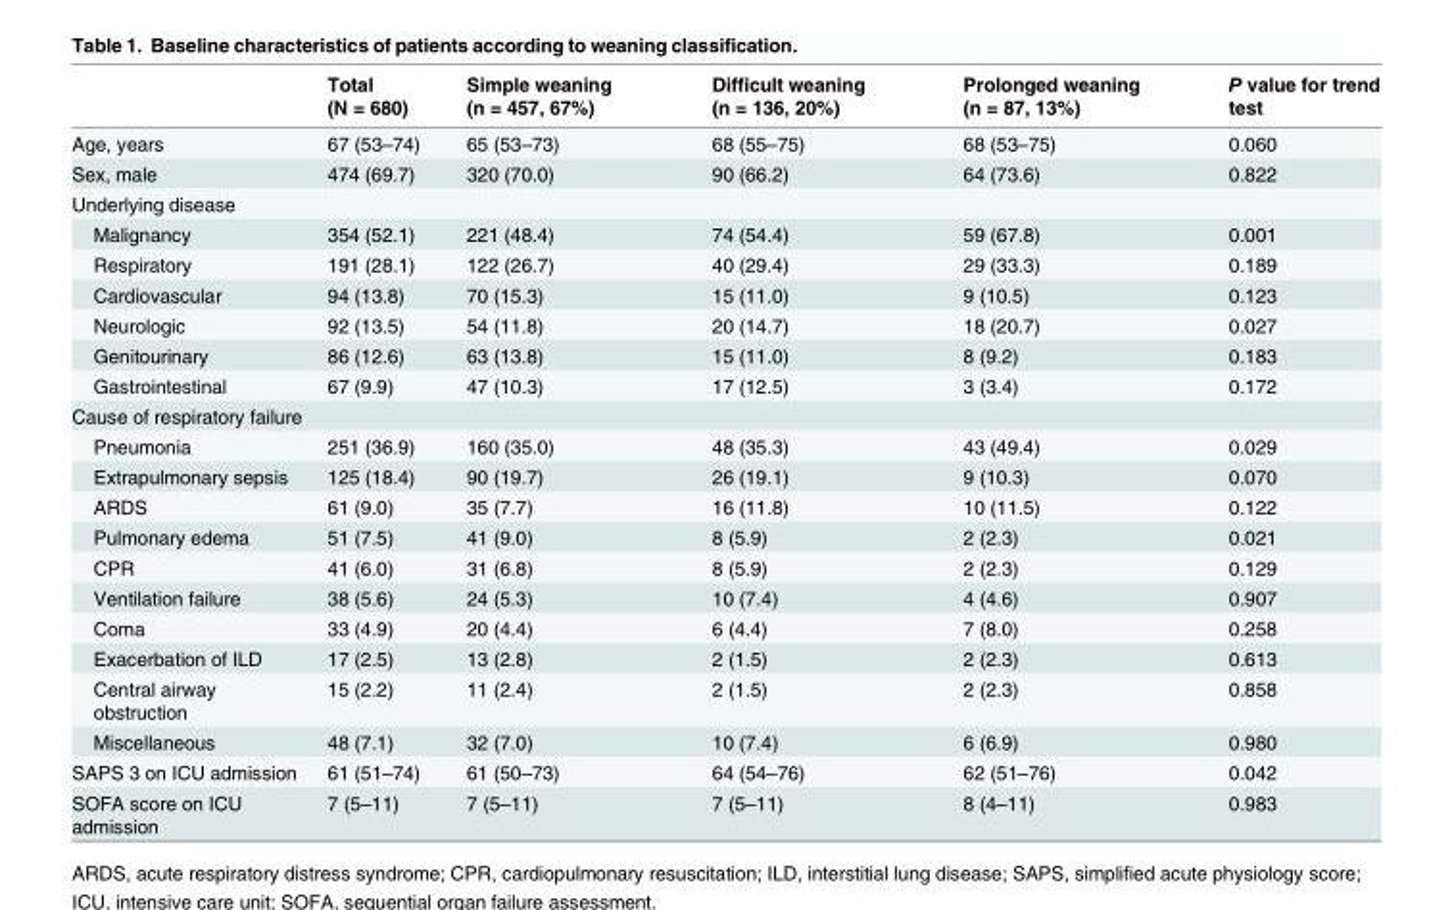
<table><thead><tr><td></td><td>Total (N = 680)</td><td>Simple weaning (n = 457, 67%)</td><td>Difficult weaning (n = 136, 20%)</td><td>Prolonged weaning (n = 87, 13%)</td><td>P value for trend test</td></tr></thead><tbody><tr><td>Age, years</td><td>67 (53–74)</td><td>65 (53–73)</td><td>68 (55–75)</td><td>68 (53–75)</td><td>0.060</td></tr><tr><td>Sex, male</td><td>474 (69.7)</td><td>320 (70.0)</td><td>90 (66.2)</td><td>64 (73.6)</td><td>0.822</td></tr><tr><td colspan="6">Underlying disease</td></tr><tr><td>Malignancy</td><td>354 (52.1)</td><td>221 (48.4)</td><td>74 (54.4)</td><td>59 (67.8)</td><td>0.001</td></tr><tr><td>Respiratory</td><td>191 (28.1)</td><td>122 (26.7)</td><td>40 (29.4)</td><td>29 (33.3)</td><td>0.189</td></tr><tr><td>Cardiovascular</td><td>94 (13.8)</td><td>70 (15.3)</td><td>15 (11.0)</td><td>9 (10.5)</td><td>0.123</td></tr><tr><td>Neurologic</td><td>92 (13.5)</td><td>54 (11.8)</td><td>20 (14.7)</td><td>18 (20.7)</td><td>0.027</td></tr><tr><td>Genitourinary</td><td>86 (12.6)</td><td>63 (13.8)</td><td>15 (11.0)</td><td>8 (9.2)</td><td>0.183</td></tr><tr><td>Gastrointestinal</td><td>67 (9.9)</td><td>47 (10.3)</td><td>17 (12.5)</td><td>3 (3.4)</td><td>0.172</td></tr><tr><td colspan="6">Cause of respiratory failure</td></tr><tr><td>Pneumonia</td><td>251 (36.9)</td><td>160 (35.0)</td><td>48 (35.3)</td><td>43 (49.4)</td><td>0.029</td></tr><tr><td>Extrapulmonary sepsis</td><td>125 (18.4)</td><td>90 (19.7)</td><td>26 (19.1)</td><td>9 (10.3)</td><td>0.070</td></tr><tr><td>ARDS</td><td>61 (9.0)</td><td>35 (7.7)</td><td>16 (11.8)</td><td>10 (11.5)</td><td>0.122</td></tr><tr><td>Pulmonary edema</td><td>51 (7.5)</td><td>41 (9.0)</td><td>8 (5.9)</td><td>2 (2.3)</td><td>0.021</td></tr><tr><td>CPR</td><td>41 (6.0)</td><td>31 (6.8)</td><td>8 (5.9)</td><td>2 (2.3)</td><td>0.129</td></tr><tr><td>Ventilation failure</td><td>38 (5.6)</td><td>24 (5.3)</td><td>10 (7.4)</td><td>4 (4.6)</td><td>0.907</td></tr><tr><td>Coma</td><td>33 (4.9)</td><td>20 (4.4)</td><td>6 (4.4)</td><td>7 (8.0)</td><td>0.258</td></tr><tr><td>Exacerbation of ILD</td><td>17 (2.5)</td><td>13 (2.8)</td><td>2 (1.5)</td><td>2 (2.3)</td><td>0.613</td></tr><tr><td>Central airway obstruction</td><td>15 (2.2)</td><td>11 (2.4)</td><td>2 (1.5)</td><td>2 (2.3)</td><td>0.858</td></tr><tr><td>Miscellaneous</td><td>48 (7.1)</td><td>32 (7.0)</td><td>10 (7.4)</td><td>6 (6.9)</td><td>0.980</td></tr><tr><td>SAPS 3 on ICU admission</td><td>61 (51–74)</td><td>61 (50–73)</td><td>64 (54–76)</td><td>62 (51–76)</td><td>0.042</td></tr><tr><td>SOFA score on ICU admission</td><td>7 (5–11)</td><td>7 (5–11)</td><td>7 (5–11)</td><td>8 (4–11)</td><td>0.983</td></tr></tbody></table>